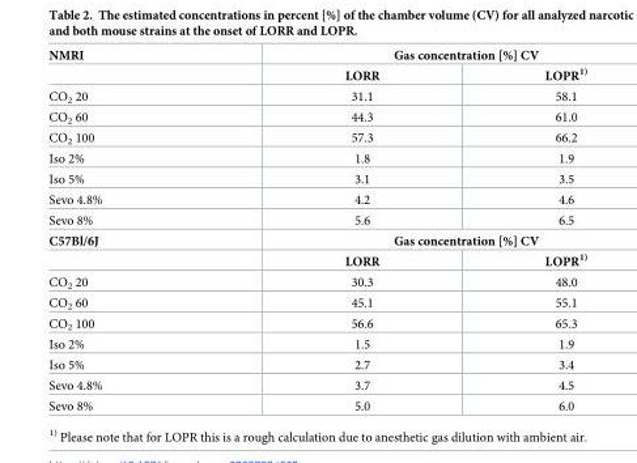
<table><thead><tr><td rowspan="2">NMRI</td><td colspan="2">Gas concentration [%] CV</td></tr><tr><td>LORR</td><td>LOPR<sup>1)</sup></td></tr></thead><tbody><tr><td>CO<sub>2</sub> 20</td><td>31.1</td><td>58.1</td></tr><tr><td>CO<sub>2</sub> 60</td><td>44.3</td><td>61.0</td></tr><tr><td>CO<sub>2</sub> 100</td><td>57.3</td><td>66.2</td></tr><tr><td>Iso 2%</td><td>1.8</td><td>1.9</td></tr><tr><td>Iso 5%</td><td>3.1</td><td>3.5</td></tr><tr><td>Sevo 4.8%</td><td>4.2</td><td>4.6</td></tr><tr><td>Sevo 8%</td><td>5.6</td><td>6.5</td></tr><tr><td rowspan="2">C57Bl/6J</td><td colspan="2">Gas concentration [%] CV</td></tr><tr><td>LORR</td><td>LOPR<sup>1)</sup></td></tr><tr><td>CO<sub>2</sub> 20</td><td>30.3</td><td>48.0</td></tr><tr><td>CO<sub>2</sub> 60</td><td>45.1</td><td>55.1</td></tr><tr><td>CO<sub>2</sub> 100</td><td>56.6</td><td>65.3</td></tr><tr><td>Iso 2%</td><td>1.5</td><td>1.9</td></tr><tr><td>Iso 5%</td><td>2.7</td><td>3.4</td></tr><tr><td>Sevo 4.8%</td><td>3.7</td><td>4.5</td></tr><tr><td>Sevo 8%</td><td>5.0</td><td>6.0</td></tr></tbody></table>